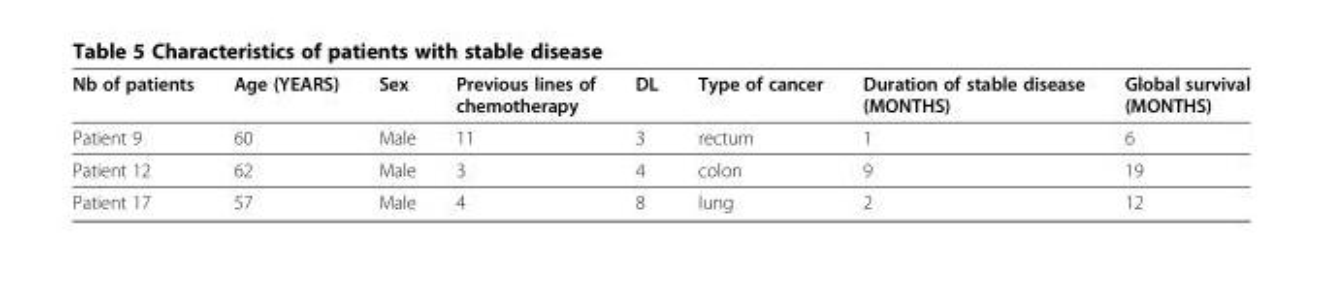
<table><thead><tr><td>Nb of patients</td><td>Age (YEARS)</td><td>Sex</td><td>Previous lines of chemotherapy</td><td>DL</td><td>Type of cancer</td><td>Duration of stable disease (MONTHS)</td><td>Global survival (MONTHS)</td></tr></thead><tbody><tr><td>Patient 9</td><td>60</td><td>Male</td><td>11</td><td>3</td><td>rectum</td><td>1</td><td>6</td></tr><tr><td>Patient 12</td><td>62</td><td>Male</td><td>3</td><td>4</td><td>colon</td><td>9</td><td>19</td></tr><tr><td>Patient 17</td><td>57</td><td>Male</td><td>4</td><td>8</td><td>lung</td><td>2</td><td>12</td></tr></tbody></table>